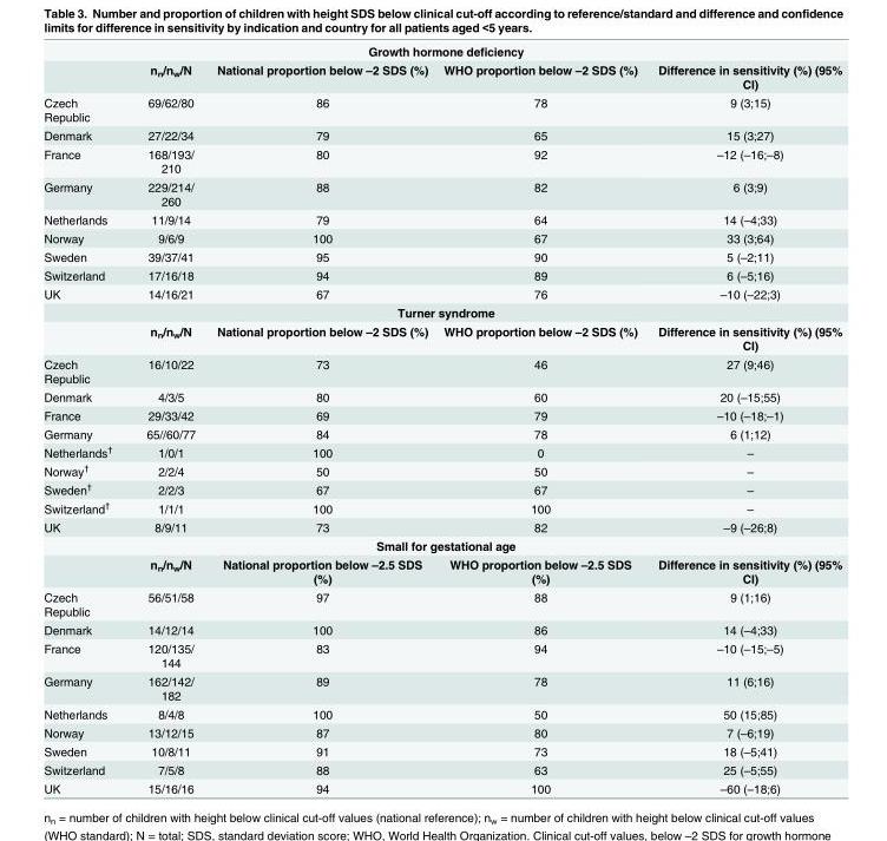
<table><tbody><tr><td colspan="5">Growth hormone deficiency</td></tr><tr><td></td><td>n<sub>n</sub>/n<sub>w</sub>/N</td><td>National proportion below –2 SDS (%)</td><td>WHO proportion below –2 SDS (%)</td><td>Difference in sensitivity (%) (95% CI)</td></tr><tr><td>Czech Republic</td><td>69/62/80</td><td>86</td><td>78</td><td>9 (3;15)</td></tr><tr><td>Denmark</td><td>27/22/34</td><td>79</td><td>65</td><td>15 (3;27)</td></tr><tr><td>France</td><td>168/193/ 210</td><td>80</td><td>92</td><td>–12 (–16;–8)</td></tr><tr><td>Germany</td><td>229/214/ 260</td><td>88</td><td>82</td><td>6 (3;9)</td></tr><tr><td>Netherlands</td><td>11/9/14</td><td>79</td><td>64</td><td>14 (–4;33)</td></tr><tr><td>Norway</td><td>9/6/9</td><td>100</td><td>67</td><td>33 (3;64)</td></tr><tr><td>Sweden</td><td>39/37/41</td><td>95</td><td>90</td><td>5 (–2;11)</td></tr><tr><td>Switzerland</td><td>17/16/18</td><td>94</td><td>89</td><td>6 (–5;16)</td></tr><tr><td>UK</td><td>14/16/21</td><td>67</td><td>76</td><td>–10 (–22;3)</td></tr><tr><td colspan="5">Turner syndrome</td></tr><tr><td></td><td>n<sub>n</sub>/n<sub>w</sub>/N</td><td>National proportion below –2 SDS (%)</td><td>WHO proportion below –2 SDS (%)</td><td>Difference in sensitivity (%) (95% CI)</td></tr><tr><td>Czech Republic</td><td>16/10/22</td><td>73</td><td>46</td><td>27 (9;46)</td></tr><tr><td>Denmark</td><td>4/3/5</td><td>80</td><td>60</td><td>20 (–15;55)</td></tr><tr><td>France</td><td>29/33/42</td><td>69</td><td>79</td><td>–10 (–18;–1)</td></tr><tr><td>Germany</td><td>65//60/77</td><td>84</td><td>78</td><td>6 (1;12)</td></tr><tr><td>Netherlands<sup>†</sup></td><td>1/0/1</td><td>100</td><td>0</td><td>–</td></tr><tr><td>Norway<sup>†</sup></td><td>2/2/4</td><td>50</td><td>50</td><td>–</td></tr><tr><td>Sweden<sup>†</sup></td><td>2/2/3</td><td>67</td><td>67</td><td>–</td></tr><tr><td>Switzerland<sup>†</sup></td><td>1/1/1</td><td>100</td><td>100</td><td>–</td></tr><tr><td>UK</td><td>8/9/11</td><td>73</td><td>82</td><td>–9 (–26;8)</td></tr><tr><td colspan="5">Small for gestational age</td></tr><tr><td></td><td>n<sub>n</sub>/n<sub>w</sub>/N</td><td>National proportion below –2.5 SDS (%)</td><td>WHO proportion below –2.5 SDS (%)</td><td>Difference in sensitivity (%) (95% CI)</td></tr><tr><td>Czech Republic</td><td>56/51/58</td><td>97</td><td>88</td><td>9 (1;16)</td></tr><tr><td>Denmark</td><td>14/12/14</td><td>100</td><td>86</td><td>14 (–4;33)</td></tr><tr><td>France</td><td>120/135/ 144</td><td>83</td><td>94</td><td>–10 (–15;–5)</td></tr><tr><td>Germany</td><td>162/142/ 182</td><td>89</td><td>78</td><td>11 (6;16)</td></tr><tr><td>Netherlands</td><td>8/4/8</td><td>100</td><td>50</td><td>50 (15;85)</td></tr><tr><td>Norway</td><td>13/12/15</td><td>87</td><td>80</td><td>7 (–6;19)</td></tr><tr><td>Sweden</td><td>10/8/11</td><td>91</td><td>73</td><td>18 (–5;41)</td></tr><tr><td>Switzerland</td><td>7/5/8</td><td>88</td><td>63</td><td>25 (–5;55)</td></tr><tr><td>UK</td><td>15/16/16</td><td>94</td><td>100</td><td>–60 (–18;6)</td></tr></tbody></table>